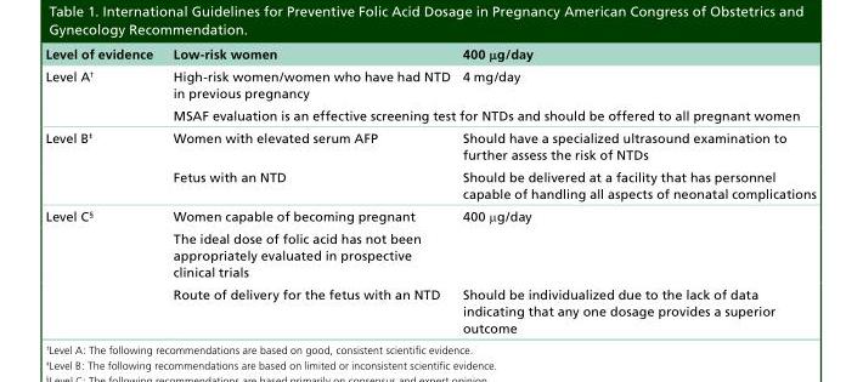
<table><thead><tr><td>Level of evidence</td><td>Low-risk women</td><td>400 μg/day</td></tr></thead><tbody><tr><td rowspan="2">Level A<sup>†</sup></td><td>High-risk women/women who have had NTD in previous pregnancy</td><td>4 mg/day</td></tr><tr><td colspan="2">MSAF evaluation is an effective screening test for NTDs and should be offered to all pregnant women</td></tr><tr><td rowspan="2">Level B<sup>‡</sup></td><td>Women with elevated serum AFP</td><td>Should have a specialized ultrasound examination to further assess the risk of NTDs</td></tr><tr><td>Fetus with an NTD</td><td>Should be delivered at a facility that has personnel capable of handling all aspects of neonatal complications</td></tr><tr><td rowspan="3">Level C<sup>§</sup></td><td>Women capable of becoming pregnant</td><td>400 μg/day</td></tr><tr><td>The ideal dose of folic acid has not been appropriately evaluated in prospective clinical trials</td><td></td></tr><tr><td>Route of delivery for the fetus with an NTD</td><td>Should be individualized due to the lack of data indicating that any one dosage provides a superior outcome</td></tr></tbody></table>